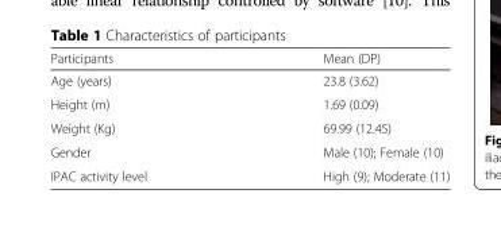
<table><thead><tr><td>Participants</td><td>Mean (DP)</td></tr></thead><tbody><tr><td>Age (years)</td><td>23.8 (3.62)</td></tr><tr><td>Height (m)</td><td>1.69 (0.09)</td></tr><tr><td>Weight (Kg)</td><td>69.99 (12.45)</td></tr><tr><td>Gender</td><td>Male (10); Female (10)</td></tr><tr><td>IPAC activity level</td><td>High (9); Moderate (11)</td></tr></tbody></table>